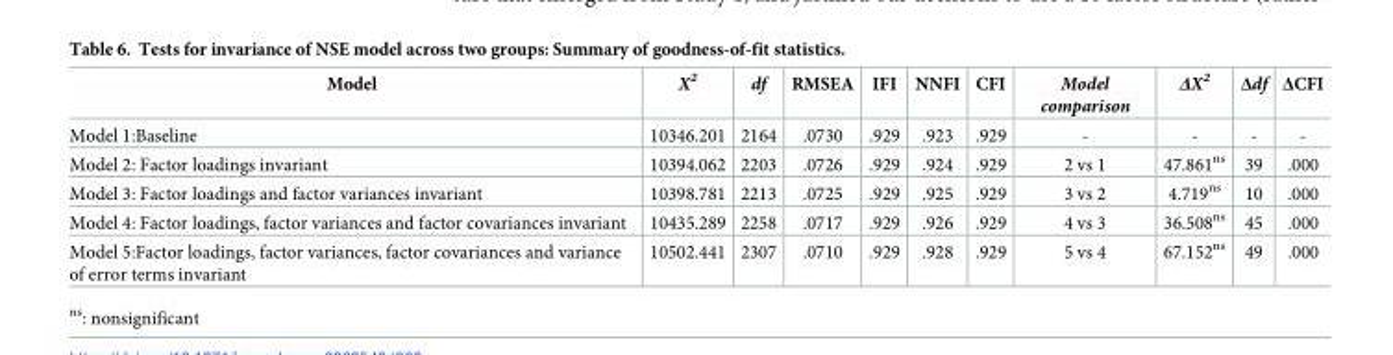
<table><thead><tr><td>Model</td><td>Χ<sup>2</sup></td><td>df</td><td>RMSEA</td><td>IFI</td><td>NNFI</td><td>CFI</td><td>Model comparison</td><td>ΔΧ<sup>2</sup></td><td>Δdf</td><td>ΔCFI</td></tr></thead><tbody><tr><td>Model 1:Baseline</td><td>10346.201</td><td>2164</td><td>.0730</td><td>.929</td><td>.923</td><td>.929</td><td>-</td><td>-</td><td>-</td><td>-</td></tr><tr><td>Model 2: Factor loadings invariant</td><td>10394.062</td><td>2203</td><td>.0726</td><td>.929</td><td>.924</td><td>.929</td><td>2 vs 1</td><td>47.861<sup>ns</sup></td><td>39</td><td>.000</td></tr><tr><td>Model 3: Factor loadings and factor variances invariant</td><td>10398.781</td><td>2213</td><td>.0725</td><td>.929</td><td>.925</td><td>.929</td><td>3 vs 2</td><td>4.719<sup>ns</sup></td><td>10</td><td>.000</td></tr><tr><td>Model 4: Factor loadings, factor variances and factor covariances invariant</td><td>10435.289</td><td>2258</td><td>.0717</td><td>.929</td><td>.926</td><td>.929</td><td>4 vs 3</td><td>36.508<sup>ns</sup></td><td>45</td><td>.000</td></tr><tr><td>Model 5:Factor loadings, factor variances, factor covariances and variance of error terms invariant</td><td>10502.441</td><td>2307</td><td>.0710</td><td>.929</td><td>.928</td><td>.929</td><td>5 vs 4</td><td>67.152<sup>ns</sup></td><td>49</td><td>.000</td></tr></tbody></table>